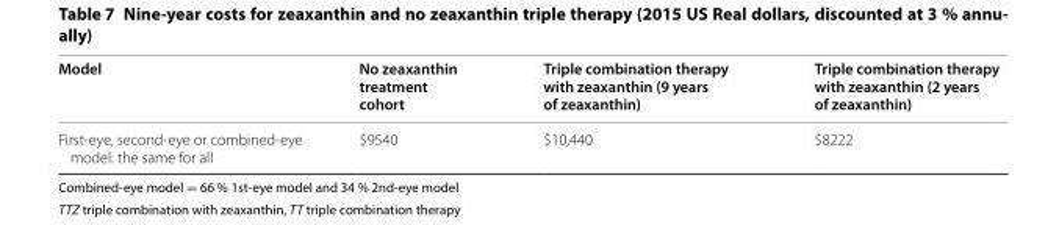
<table><thead><tr><td>Model</td><td>No zeaxanthin treatment cohort</td><td>Triple combination therapy with zeaxanthin (9 years of zeaxanthin)</td><td>Triple combination therapy with zeaxanthin (2 years of zeaxanthin)</td></tr></thead><tbody><tr><td>First-eye, second-eye or combined-eye model: the same for all</td><td>$9540</td><td>$10,440</td><td>$8222</td></tr></tbody></table>